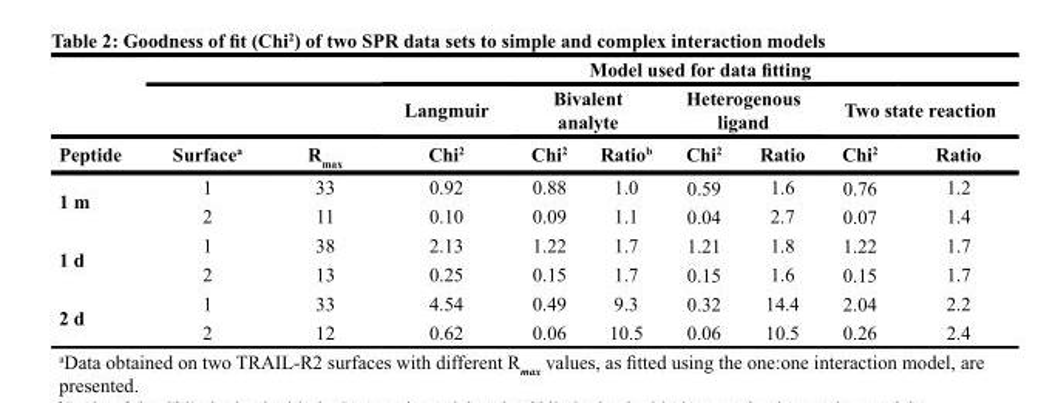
<table><thead><tr><td rowspan="3">Peptide</td><td rowspan="3">Surface<sup>a</sup></td><td rowspan="3">R<sub>max</sub></td><td colspan="7">Model used for data fitting</td></tr><tr><td rowspan="2">Langmuir Chi<sup>2</sup></td><td colspan="2">Bivalent analyte</td><td colspan="2">Heterogenous ligand</td><td colspan="2">Two state reaction</td></tr><tr><td>Chi<sup>2</sup></td><td>Ratio<sup>b</sup></td><td>Chi<sup>2</sup></td><td>Ratio</td><td>Chi<sup>2</sup></td><td>Ratio</td></tr></thead><tbody><tr><td rowspan="2">1 m</td><td>1</td><td>33</td><td>0.92</td><td>0.88</td><td>1.0</td><td>0.59</td><td>1.6</td><td>0.76</td><td>1.2</td></tr><tr><td>2</td><td>11</td><td>0.10</td><td>0.09</td><td>1.1</td><td>0.04</td><td>2.7</td><td>0.07</td><td>1.4</td></tr><tr><td rowspan="2">1 d</td><td>1</td><td>38</td><td>2.13</td><td>1.22</td><td>1.7</td><td>1.21</td><td>1.8</td><td>1.22</td><td>1.7</td></tr><tr><td>2</td><td>13</td><td>0.25</td><td>0.15</td><td>1.7</td><td>0.15</td><td>1.6</td><td>0.15</td><td>1.7</td></tr><tr><td rowspan="2">2 d</td><td>1</td><td>33</td><td>4.54</td><td>0.49</td><td>9.3</td><td>0.32</td><td>14.4</td><td>2.04</td><td>2.2</td></tr><tr><td>2</td><td>12</td><td>0.62</td><td>0.06</td><td>10.5</td><td>0.06</td><td>10.5</td><td>0.26</td><td>2.4</td></tr></tbody></table>